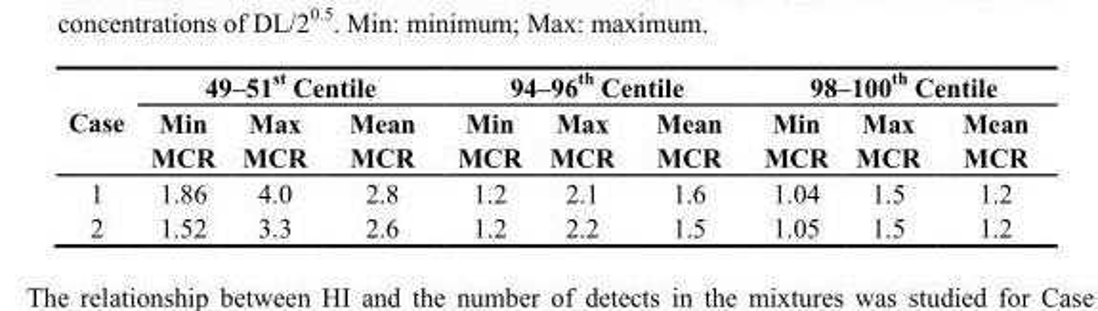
<table><thead><tr><td rowspan="2">Case</td><td colspan="3">49–51<sup>st</sup> Centile</td><td colspan="3">94–96<sup>th</sup> Centile</td><td colspan="3">98–100<sup>th</sup> Centile</td></tr><tr><td>Min MCR</td><td>Max MCR</td><td>Mean MCR</td><td>Min MCR</td><td>Max MCR</td><td>Mean MCR</td><td>Min MCR</td><td>Max MCR</td><td>Mean MCR</td></tr></thead><tbody><tr><td>1</td><td>1.86</td><td>4.0</td><td>2.8</td><td>1.2</td><td>2.1</td><td>1.6</td><td>1.04</td><td>1.5</td><td>1.2</td></tr><tr><td>2</td><td>1.52</td><td>3.3</td><td>2.6</td><td>1.2</td><td>2.2</td><td>1.5</td><td>1.05</td><td>1.5</td><td>1.2</td></tr></tbody></table>